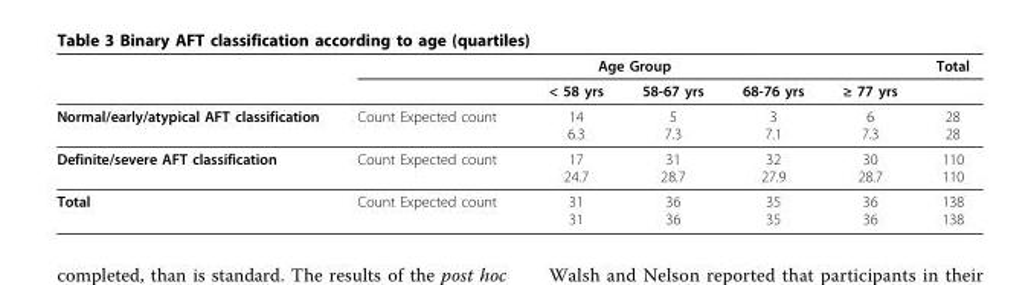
<table><thead><tr><td rowspan="2"></td><td colspan="5">Age Group</td><td rowspan="2">Total</td></tr><tr><td></td><td>&lt; 58 yrs</td><td>58-67 yrs</td><td>68-76 yrs</td><td>≥ 77 yrs</td></tr></thead><tbody><tr><td>Normal/early/atypical AFT classification</td><td>Count Expected count</td><td>14 6.3</td><td>5 7.3</td><td>3 7.1</td><td>6 7.3</td><td>28 28</td></tr><tr><td>Definite/severe AFT classification</td><td>Count Expected count</td><td>17 24.7</td><td>31 28.7</td><td>32 27.9</td><td>30 28.7</td><td>110 110</td></tr><tr><td>Total</td><td>Count Expected count</td><td>31 31</td><td>36 36</td><td>35 35</td><td>36 36</td><td>138 138</td></tr></tbody></table>